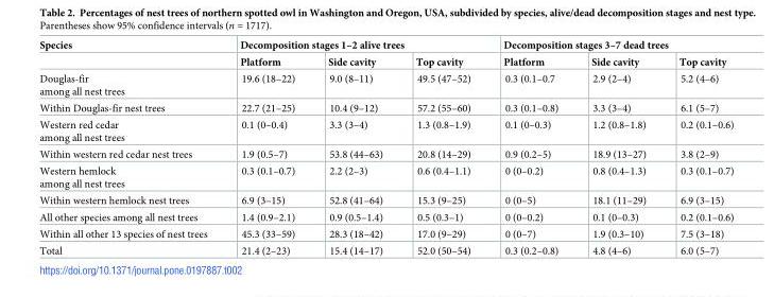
<table><thead><tr><td rowspan="2">Species</td><td colspan="3">Decomposition stages 1–2 alive trees</td><td colspan="3">Decomposition stages 3–7 dead trees</td></tr><tr><td>Platform</td><td>Side cavity</td><td>Top cavity</td><td>Platform</td><td>Side cavity</td><td>Top cavity</td></tr></thead><tbody><tr><td>Douglas-fir among all nest trees</td><td>19.6 (18–22)</td><td>9.0 (8–11)</td><td>49.5 (47–52)</td><td>0.3 (0.1–0.7</td><td>2.9 (2–4)</td><td>5.2 (4–6)</td></tr><tr><td>Within Douglas-fir nest trees</td><td>22.7 (21–25)</td><td>10.4 (9–12)</td><td>57.2 (55–60)</td><td>0.3 (0.1–0.8)</td><td>3.3 (3–4)</td><td>6.1 (5–7)</td></tr><tr><td>Western red cedar among all nest trees</td><td>0.1 (0–0.4)</td><td>3.3 (3–4)</td><td>1.3 (0.8–1.9)</td><td>0.1 (0–0.3)</td><td>1.2 (0.8–1.8)</td><td>0.2 (0.1–0.6)</td></tr><tr><td>Within western red cedar nest trees</td><td>1.9 (0.5–7)</td><td>53.8 (44–63)</td><td>20.8 (14–29)</td><td>0.9 (0.2–5)</td><td>18.9 (13–27)</td><td>3.8 (2–9)</td></tr><tr><td>Western hemlock among all nest trees</td><td>0.3 (0.1–0.7)</td><td>2.2 (2–3)</td><td>0.6 (0.4–1.1)</td><td>0 (0–0.2)</td><td>0.8 (0.4–1.3)</td><td>0.3 (0.1–0.7)</td></tr><tr><td>Within western hemlock nest trees</td><td>6.9 (3–15)</td><td>52.8 (41–64)</td><td>15.3 (9–25)</td><td>0 (0–5)</td><td>18.1 (11–29)</td><td>6.9 (3–15)</td></tr><tr><td>All other species among all nest trees</td><td>1.4 (0.9–2.1)</td><td>0.9 (0.5–1.4)</td><td>0.5 (0.3–1)</td><td>0 (0–0.2)</td><td>0.1 (0–0.3)</td><td>0.2 (0.1–0.6)</td></tr><tr><td>Within all other 13 species of nest trees</td><td>45.3 (33–59)</td><td>28.3 (18–42)</td><td>17.0 (9–29)</td><td>0 (0–7)</td><td>1.9 (0.3–10)</td><td>7.5 (3–18)</td></tr><tr><td>Total</td><td>21.4 (2–23)</td><td>15.4 (14–17)</td><td>52.0 (50–54)</td><td>0.3 (0.2–0.8)</td><td>4.8 (4–6)</td><td>6.0 (5–7)</td></tr></tbody></table>